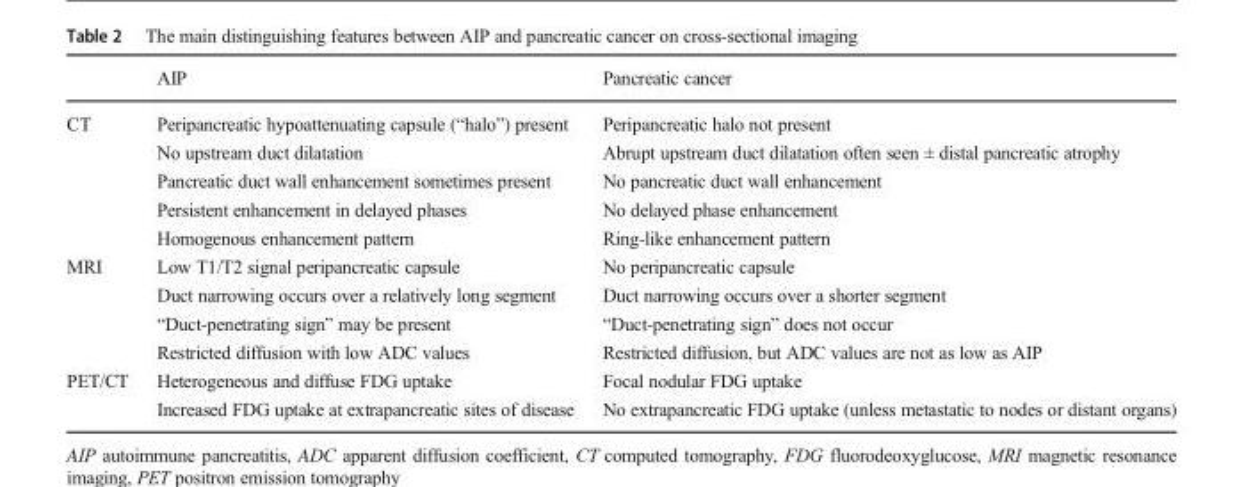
<table><thead><tr><td></td><td>AIP</td><td>Pancreatic cancer</td></tr></thead><tbody><tr><td rowspan="5">CT</td><td>Peripancreatic hypoattenuating capsule (“halo”) present</td><td>Peripancreatic halo not present</td></tr><tr><td>No upstream duct dilatation</td><td>Abrupt upstream duct dilatation often seen ± distal pancreatic atrophy</td></tr><tr><td>Pancreatic duct wall enhancement sometimes present</td><td>No pancreatic duct wall enhancement</td></tr><tr><td>Persistent enhancement in delayed phases</td><td>No delayed phase enhancement</td></tr><tr><td>Homogenous enhancement pattern</td><td>Ring-like enhancement pattern</td></tr><tr><td rowspan="4">MRI</td><td>Low T1/T2 signal peripancreatic capsule</td><td>No peripancreatic capsule</td></tr><tr><td>Duct narrowing occurs over a relatively long segment</td><td>Duct narrowing occurs over a shorter segment</td></tr><tr><td>“Duct-penetrating sign” may be present</td><td>“Duct-penetrating sign” does not occur</td></tr><tr><td>Restricted diffusion with low ADC values</td><td>Restricted diffusion, but ADC values are not as low as AIP</td></tr><tr><td rowspan="2">PET/CT</td><td>Heterogeneous and diffuse FDG uptake</td><td>Focal nodular FDG uptake</td></tr><tr><td>Increased FDG uptake at extrapancreatic sites of disease</td><td>No extrapancreatic FDG uptake (unless metastatic to nodes or distant organs)</td></tr></tbody></table>